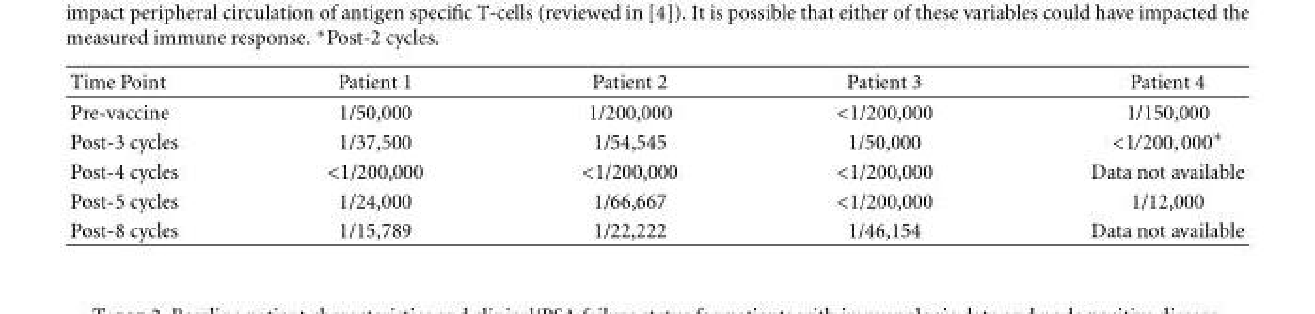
<table><thead><tr><td>Time Point</td><td>Patient 1</td><td>Patient 2</td><td>Patient 3</td><td>Patient 4</td></tr></thead><tbody><tr><td>Pre-vaccine</td><td>1/50,000</td><td>1/200,000</td><td>&lt;1/200,000</td><td>1/150,000</td></tr><tr><td>Post-3 cycles</td><td>1/37,500</td><td>1/54,545</td><td>1/50,000</td><td>&lt;1/200,000∗</td></tr><tr><td>Post-4 cycles</td><td>&lt;1/200,000</td><td>&lt;1/200,000</td><td>&lt;1/200,000</td><td>Data not available</td></tr><tr><td>Post-5 cycles</td><td>1/24,000</td><td>1/66,667</td><td>&lt;1/200,000</td><td>1/12,000</td></tr><tr><td>Post-8 cycles</td><td>1/15,789</td><td>1/22,222</td><td>1/46,154</td><td>Data not available</td></tr></tbody></table>